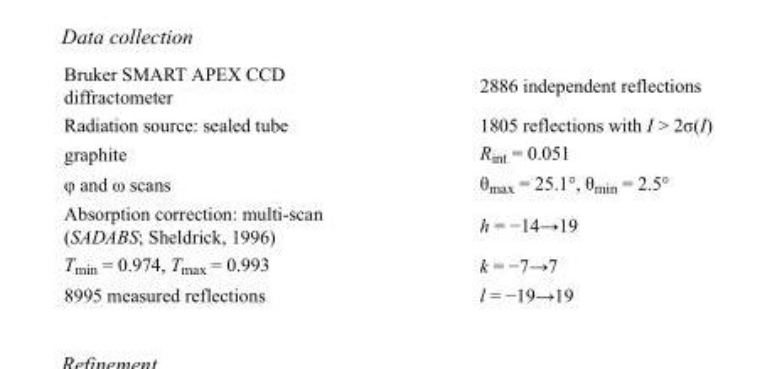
<table><tbody><tr><td>Bruker SMART APEX CCD diffractometer</td><td>2886 independent reflections</td></tr><tr><td>Radiation source: sealed tube</td><td>1805 reflections with I &gt; 2σ(I)</td></tr><tr><td>graphite</td><td>R<sub>int</sub> = 0.051</td></tr><tr><td>φ and ω scans</td><td>θ<sub>max</sub> = 25.1°, θ<sub>min</sub> = 2.5°</td></tr><tr><td>Absorption correction: multi-scan (SADABS; Sheldrick, 1996)</td><td>h = −14→19</td></tr><tr><td>T<sub>min</sub> = 0.974, T<sub>max</sub> = 0.993</td><td>k = −7→7</td></tr><tr><td>8995 measured reflections</td><td>l = −19→19</td></tr></tbody></table>